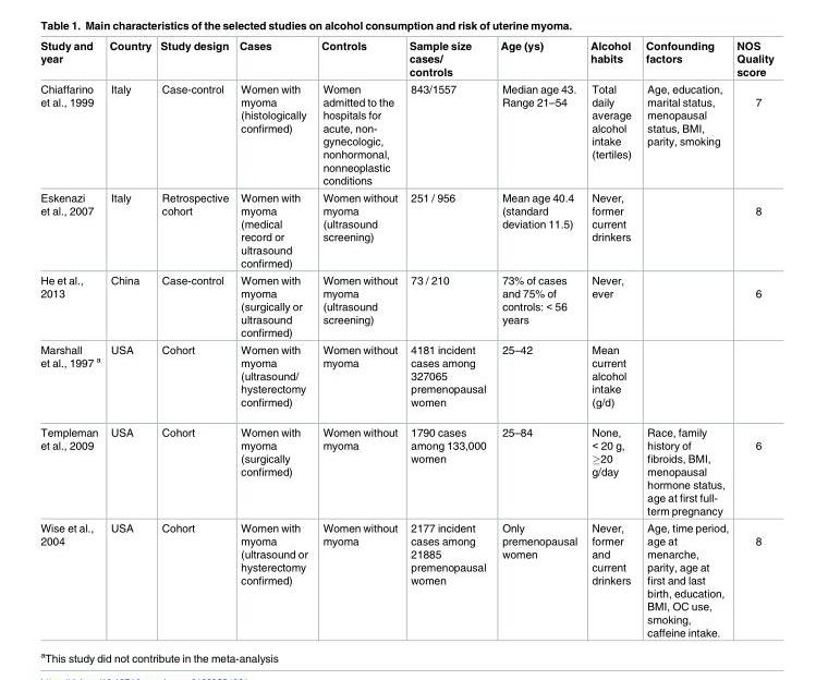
<table><thead><tr><td>Study and year</td><td>Country</td><td>Study design</td><td>Cases</td><td>Controls</td><td>Sample size cases/ controls</td><td>Age (ys)</td><td>Alcohol habits</td><td>Confounding factors</td><td>NOS Quality score</td></tr></thead><tbody><tr><td>Chiaffarino et al., 1999</td><td>Italy</td><td>Case-control</td><td>Women with myoma (histologically confirmed)</td><td>Women admitted to the hospitals for acute, non- gynecologic, nonhormonal, nonneoplastic conditions</td><td>843/1557</td><td>Median age 43. Range 21–54</td><td>Total daily average alcohol intake (tertiles)</td><td>Age, education, marital status, menopausal status, BMI, parity, smoking</td><td>7</td></tr><tr><td>Eskenazi et al., 2007</td><td>Italy</td><td>Retrospective cohort</td><td>Women with myoma (medical record or ultrasound confirmed)</td><td>Women without myoma (ultrasound screening)</td><td>251 / 956</td><td>Mean age 40.4 (standard deviation 11.5)</td><td>Never, former current drinkers</td><td></td><td>8</td></tr><tr><td>He et al., 2013</td><td>China</td><td>Case-control</td><td>Women with myoma (surgically or ultrasound confirmed)</td><td>Women without myoma (ultrasound screening)</td><td>73 / 210</td><td>73% of cases and 75% of controls: &lt; 56 years</td><td>Never, ever</td><td></td><td>6</td></tr><tr><td>Marshall et al., 1997 <sup>a</sup></td><td>USA</td><td>Cohort</td><td>Women with myoma (ultrasound/ hysterectomy confirmed)</td><td>Women without myoma</td><td>4181 incident cases among 327065 premenopausal women</td><td>25–42</td><td>Mean current alcohol intake (g/d)</td><td></td><td></td></tr><tr><td>Templeman et al., 2009</td><td>USA</td><td>Cohort</td><td>Women with myoma (surgically confirmed)</td><td>Women without myoma</td><td>1790 cases among 133,000 women</td><td>25–84</td><td>None, &lt; 20 g, ≥20 g/day</td><td>Race, family history of fibroids, BMI, menopausal hormone status, age at first full- term pregnancy</td><td>6</td></tr><tr><td>Wise et al., 2004</td><td>USA</td><td>Cohort</td><td>Women with myoma (ultrasound or hysterectomy confirmed)</td><td>Women without myoma</td><td>2177 incident cases among 21885 premenopausal women</td><td>Only premenopausal women</td><td>Never, former and current drinkers</td><td>Age, time period, age at menarche, parity, age at first and last birth, education, BMI, OC use, smoking, caffeine intake.</td><td>8</td></tr></tbody></table>